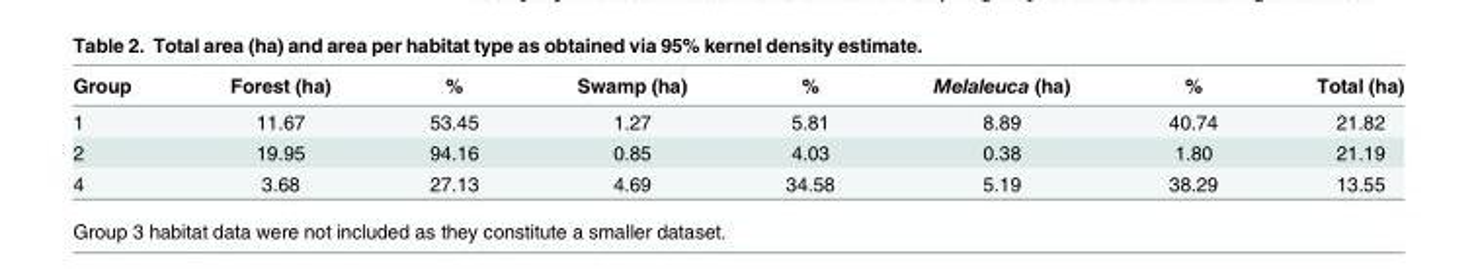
<table><thead><tr><td>Group</td><td>Forest (ha)</td><td>%</td><td>Swamp (ha)</td><td>%</td><td>Melaleuca (ha)</td><td>%</td><td>Total (ha)</td></tr></thead><tbody><tr><td>1</td><td>11.67</td><td>53.45</td><td>1.27</td><td>5.81</td><td>8.89</td><td>40.74</td><td>21.82</td></tr><tr><td>2</td><td>19.95</td><td>94.16</td><td>0.85</td><td>4.03</td><td>0.38</td><td>1.80</td><td>21.19</td></tr><tr><td>4</td><td>3.68</td><td>27.13</td><td>4.69</td><td>34.58</td><td>5.19</td><td>38.29</td><td>13.55</td></tr></tbody></table>